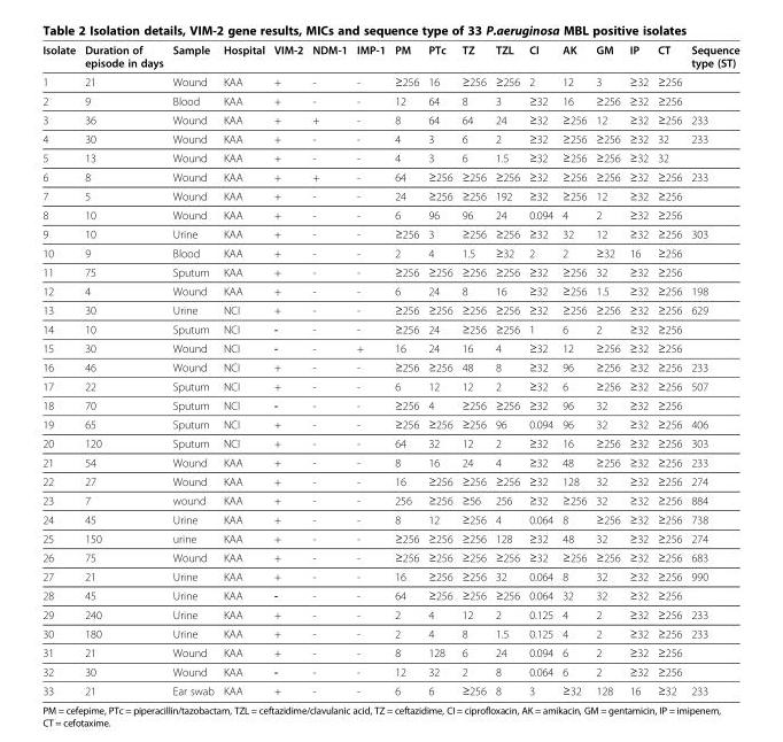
<table><thead><tr><td>Isolate</td><td>Duration of episode in days</td><td>Sample</td><td>Hospital</td><td>VIM-2</td><td>NDM-1</td><td>IMP-1</td><td>PM</td><td>PTc</td><td>TZ</td><td>TZL</td><td>CI</td><td>AK</td><td>GM</td><td>IP</td><td>CT</td><td>Sequence type (ST)</td></tr></thead><tbody><tr><td>1</td><td>21</td><td>Wound</td><td>KAA</td><td>+</td><td>-</td><td>-</td><td>≥256</td><td>16</td><td>≥256</td><td>≥256</td><td>2</td><td>12</td><td>3</td><td>≥32</td><td>≥256</td><td></td></tr><tr><td>2</td><td>9</td><td>Blood</td><td>KAA</td><td>+</td><td>-</td><td>-</td><td>12</td><td>64</td><td>8</td><td>3</td><td>≥32</td><td>16</td><td>≥256</td><td>≥32</td><td>≥256</td><td></td></tr><tr><td>3</td><td>36</td><td>Wound</td><td>KAA</td><td>+</td><td>+</td><td>-</td><td>8</td><td>64</td><td>64</td><td>24</td><td>≥32</td><td>≥256</td><td>12</td><td>≥32</td><td>≥256</td><td>233</td></tr><tr><td>4</td><td>30</td><td>Wound</td><td>KAA</td><td>+</td><td>-</td><td>-</td><td>4</td><td>3</td><td>6</td><td>2</td><td>≥32</td><td>≥256</td><td>≥256</td><td>≥32</td><td>32</td><td>233</td></tr><tr><td>5</td><td>13</td><td>Wound</td><td>KAA</td><td>+</td><td>-</td><td>-</td><td>4</td><td>3</td><td>6</td><td>1.5</td><td>≥32</td><td>≥256</td><td>≥256</td><td>≥32</td><td>32</td><td></td></tr><tr><td>6</td><td>8</td><td>Wound</td><td>KAA</td><td>+</td><td>+</td><td>-</td><td>64</td><td>≥256</td><td>≥256</td><td>≥256</td><td>≥32</td><td>≥256</td><td>≥256</td><td>≥32</td><td>≥256</td><td>233</td></tr><tr><td>7</td><td>5</td><td>Wound</td><td>KAA</td><td>+</td><td>-</td><td>-</td><td>24</td><td>≥256</td><td>≥256</td><td>192</td><td>≥32</td><td>≥256</td><td>12</td><td>≥32</td><td>≥256</td><td></td></tr><tr><td>8</td><td>10</td><td>Wound</td><td>KAA</td><td>+</td><td>-</td><td>-</td><td>6</td><td>96</td><td>96</td><td>24</td><td>0.094</td><td>4</td><td>2</td><td>≥32</td><td>≥256</td><td></td></tr><tr><td>9</td><td>10</td><td>Urine</td><td>KAA</td><td>+</td><td>-</td><td>-</td><td>≥256</td><td>3</td><td>≥256</td><td>≥256</td><td>≥32</td><td>32</td><td>12</td><td>≥32</td><td>≥256</td><td>303</td></tr><tr><td>10</td><td>9</td><td>Blood</td><td>KAA</td><td>+</td><td>-</td><td>-</td><td>2</td><td>4</td><td>1.5</td><td>≥32</td><td>2</td><td>2</td><td>≥32</td><td>16</td><td>≥256</td><td></td></tr><tr><td>11</td><td>75</td><td>Sputum</td><td>KAA</td><td>+</td><td>-</td><td>-</td><td>≥256</td><td>≥256</td><td>≥256</td><td>≥256</td><td>≥32</td><td>≥256</td><td>32</td><td>≥32</td><td>≥256</td><td></td></tr><tr><td>12</td><td>4</td><td>Wound</td><td>KAA</td><td>+</td><td>-</td><td>-</td><td>6</td><td>24</td><td>8</td><td>16</td><td>≥32</td><td>≥256</td><td>1.5</td><td>≥32</td><td>≥256</td><td>198</td></tr><tr><td>13</td><td>30</td><td>Urine</td><td>NCI</td><td>+</td><td>-</td><td>-</td><td>≥256</td><td>≥256</td><td>≥256</td><td>≥256</td><td>≥32</td><td>≥256</td><td>≥256</td><td>≥32</td><td>≥256</td><td>629</td></tr><tr><td>14</td><td>10</td><td>Sputum</td><td>NCI</td><td>-</td><td>-</td><td>-</td><td>≥256</td><td>24</td><td>≥256</td><td>≥256</td><td>1</td><td>6</td><td>2</td><td>≥32</td><td>≥256</td><td></td></tr><tr><td>15</td><td>30</td><td>Wound</td><td>NCI</td><td>-</td><td>-</td><td>+</td><td>16</td><td>24</td><td>16</td><td>4</td><td>≥32</td><td>12</td><td>≥256</td><td>≥32</td><td>≥256</td><td></td></tr><tr><td>16</td><td>46</td><td>Wound</td><td>NCI</td><td>+</td><td>-</td><td>-</td><td>≥256</td><td>≥256</td><td>48</td><td>8</td><td>≥32</td><td>96</td><td>≥256</td><td>≥32</td><td>≥256</td><td>233</td></tr><tr><td>17</td><td>22</td><td>Sputum</td><td>NCI</td><td>+</td><td>-</td><td>-</td><td>6</td><td>12</td><td>12</td><td>2</td><td>≥32</td><td>6</td><td>≥256</td><td>≥32</td><td>≥256</td><td>507</td></tr><tr><td>18</td><td>70</td><td>Sputum</td><td>NCI</td><td>-</td><td>-</td><td>-</td><td>≥256</td><td>4</td><td>≥256</td><td>≥256</td><td>≥32</td><td>96</td><td>32</td><td>≥32</td><td>≥256</td><td></td></tr><tr><td>19</td><td>65</td><td>Sputum</td><td>NCI</td><td>+</td><td>-</td><td>-</td><td>≥256</td><td>≥256</td><td>≥256</td><td>96</td><td>0.094</td><td>96</td><td>32</td><td>≥32</td><td>≥256</td><td>406</td></tr><tr><td>20</td><td>120</td><td>Sputum</td><td>NCI</td><td>+</td><td>-</td><td>-</td><td>64</td><td>32</td><td>12</td><td>2</td><td>≥32</td><td>16</td><td>≥256</td><td>≥32</td><td>≥256</td><td>303</td></tr><tr><td>21</td><td>54</td><td>Wound</td><td>KAA</td><td>+</td><td>-</td><td>-</td><td>8</td><td>16</td><td>24</td><td>4</td><td>≥32</td><td>48</td><td>≥256</td><td>≥32</td><td>≥256</td><td>233</td></tr><tr><td>22</td><td>27</td><td>Wound</td><td>KAA</td><td>+</td><td>-</td><td>-</td><td>16</td><td>≥256</td><td>≥256</td><td>≥256</td><td>≥32</td><td>128</td><td>32</td><td>≥32</td><td>≥256</td><td>274</td></tr><tr><td>23</td><td>7</td><td>wound</td><td>KAA</td><td>+</td><td>-</td><td>-</td><td>256</td><td>≥256</td><td>≥56</td><td>256</td><td>≥32</td><td>≥256</td><td>32</td><td>≥32</td><td>≥256</td><td>884</td></tr><tr><td>24</td><td>45</td><td>Urine</td><td>KAA</td><td>+</td><td>-</td><td>-</td><td>8</td><td>12</td><td>≥256</td><td>4</td><td>0.064</td><td>8</td><td>≥256</td><td>≥32</td><td>≥256</td><td>738</td></tr><tr><td>25</td><td>150</td><td>urine</td><td>KAA</td><td>+</td><td>-</td><td>-</td><td>≥256</td><td>≥256</td><td>≥256</td><td>128</td><td>≥32</td><td>48</td><td>32</td><td>≥32</td><td>≥256</td><td>274</td></tr><tr><td>26</td><td>75</td><td>Wound</td><td>KAA</td><td>+</td><td>-</td><td>-</td><td>≥256</td><td>≥256</td><td>≥256</td><td>≥256</td><td>≥32</td><td>≥256</td><td>≥256</td><td>≥32</td><td>≥256</td><td>683</td></tr><tr><td>27</td><td>21</td><td>Urine</td><td>KAA</td><td>+</td><td>-</td><td>-</td><td>16</td><td>≥256</td><td>≥256</td><td>32</td><td>0.064</td><td>8</td><td>32</td><td>≥32</td><td>≥256</td><td>990</td></tr><tr><td>28</td><td>45</td><td>Urine</td><td>KAA</td><td>-</td><td>-</td><td>-</td><td>64</td><td>≥256</td><td>≥256</td><td>≥256</td><td>0.064</td><td>32</td><td>32</td><td>≥32</td><td>≥256</td><td></td></tr><tr><td>29</td><td>240</td><td>Urine</td><td>KAA</td><td>+</td><td>-</td><td>-</td><td>2</td><td>4</td><td>12</td><td>2</td><td>0.125</td><td>4</td><td>2</td><td>≥32</td><td>≥256</td><td>233</td></tr><tr><td>30</td><td>180</td><td>Urine</td><td>KAA</td><td>+</td><td>-</td><td>-</td><td>2</td><td>4</td><td>8</td><td>1.5</td><td>0.125</td><td>4</td><td>2</td><td>≥32</td><td>≥256</td><td>233</td></tr><tr><td>31</td><td>21</td><td>Wound</td><td>KAA</td><td>+</td><td>-</td><td>-</td><td>8</td><td>128</td><td>6</td><td>24</td><td>0.094</td><td>6</td><td>2</td><td>≥32</td><td>≥256</td><td></td></tr><tr><td>32</td><td>30</td><td>Wound</td><td>KAA</td><td>-</td><td>-</td><td>-</td><td>12</td><td>32</td><td>2</td><td>8</td><td>0.064</td><td>6</td><td>2</td><td>≥32</td><td>≥256</td><td></td></tr><tr><td>33</td><td>21</td><td>Ear swab</td><td>KAA</td><td>+</td><td>-</td><td>-</td><td>6</td><td>6</td><td>≥256</td><td>8</td><td>3</td><td>≥32</td><td>128</td><td>16</td><td>≥32</td><td>233</td></tr></tbody></table>